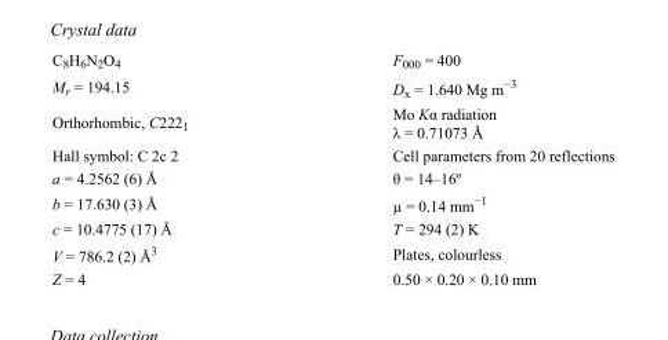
<table><tbody><tr><td>C<sub>8</sub>H<sub>6</sub>N<sub>2</sub>O<sub>4</sub></td><td>F<sub>000</sub> = 400</td></tr><tr><td>M<sub>r</sub> = 194.15</td><td>D<sub>x</sub> = 1.640 Mg m<sup>−3</sup></td></tr><tr><td>Orthorhombic, C222<sub>1</sub></td><td>Mo Kα radiation λ = 0.71073 Å</td></tr><tr><td>Hall symbol: C 2c 2</td><td>Cell parameters from 20 reflections</td></tr><tr><td>a = 4.2562 (6) Å</td><td>θ = 14–16º</td></tr><tr><td>b = 17.630 (3) Å</td><td>µ = 0.14 mm<sup>−1</sup></td></tr><tr><td>c = 10.4775 (17) Å</td><td>T = 294 (2) K</td></tr><tr><td>V = 786.2 (2) Å<sup>3</sup></td><td>Plates, colourless</td></tr><tr><td>Z = 4</td><td>0.50 × 0.20 × 0.10 mm</td></tr></tbody></table>